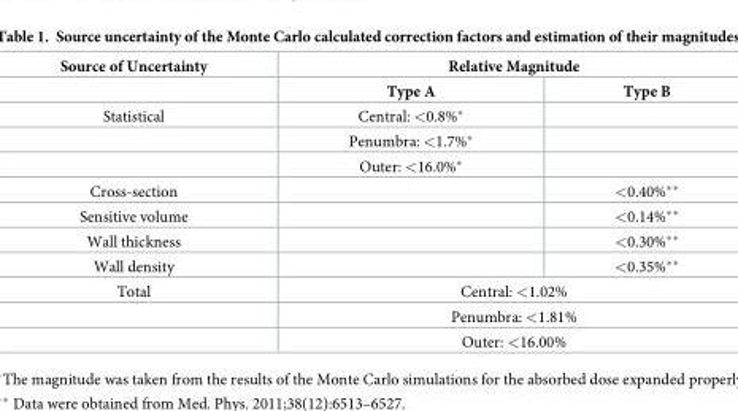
<table><thead><tr><td rowspan="2">Source of Uncertainty</td><td colspan="2">Relative Magnitude</td></tr><tr><td>Type A</td><td>Type B</td></tr></thead><tbody><tr><td rowspan="3">Statistical</td><td>Central: &lt;0.8%*</td><td></td></tr><tr><td>Penumbra: &lt;1.7%*</td><td></td></tr><tr><td>Outer: &lt;16.0%*</td><td></td></tr><tr><td>Cross-section</td><td></td><td>&lt;0.40%**</td></tr><tr><td>Sensitive volume</td><td></td><td>&lt;0.14%**</td></tr><tr><td>Wall thickness</td><td></td><td>&lt;0.30%**</td></tr><tr><td>Wall density</td><td></td><td>&lt;0.35%**</td></tr><tr><td rowspan="3">Total</td><td colspan="2">Central: &lt;1.02%</td></tr><tr><td colspan="2">Penumbra: &lt;1.81%</td></tr><tr><td colspan="2">Outer: &lt;16.00%</td></tr></tbody></table>